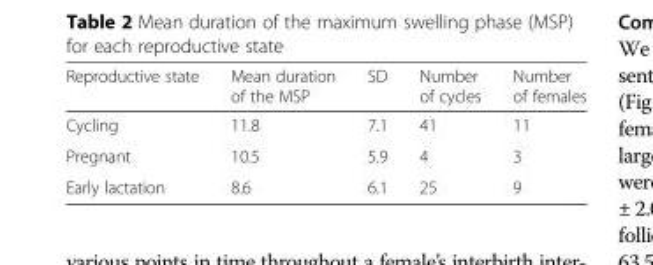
<table><thead><tr><td>Reproductive state</td><td>Mean duration of the MSP</td><td>SD</td><td>Number of cycles</td><td>Number of females</td></tr></thead><tbody><tr><td>Cycling</td><td>11.8</td><td>7.1</td><td>41</td><td>11</td></tr><tr><td>Pregnant</td><td>10.5</td><td>5.9</td><td>4</td><td>3</td></tr><tr><td>Early lactation</td><td>8.6</td><td>6.1</td><td>25</td><td>9</td></tr></tbody></table>